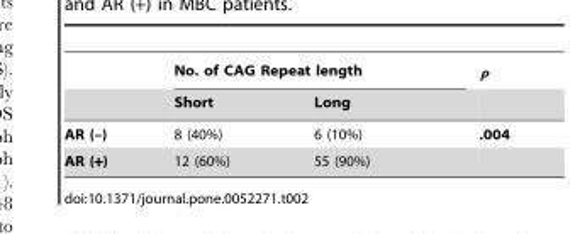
<table><thead><tr><td rowspan="2"></td><td colspan="2">No. of CAG Repeat length</td><td rowspan="2">P</td></tr><tr><td>Short</td><td>Long</td></tr></thead><tbody><tr><td>AR (–)</td><td>8 (40%)</td><td>6 (10%)</td><td>.004</td></tr><tr><td>AR (+)</td><td>12 (60%)</td><td>55 (90%)</td><td></td></tr></tbody></table>